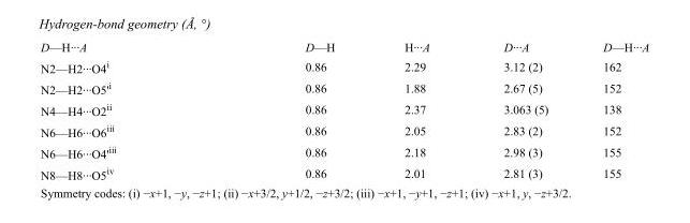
<table><tbody><tr><td>D—H···A</td><td>D—H</td><td>H···A</td><td>D···A</td><td>D—H···A</td></tr><tr><td>N2—H2···O4<sup>i</sup></td><td>0.86</td><td>2.29</td><td>3.12 (2)</td><td>162</td></tr><tr><td>N2—H2···O5&#x27;<sup>i</sup></td><td>0.86</td><td>1.88</td><td>2.67 (5)</td><td>152</td></tr><tr><td>N4—H4···O2<sup>ii</sup></td><td>0.86</td><td>2.37</td><td>3.063 (5)</td><td>138</td></tr><tr><td>N6—H6···O6<sup>iii</sup></td><td>0.86</td><td>2.05</td><td>2.83 (2)</td><td>152</td></tr><tr><td>N6—H6···O4&#x27;<sup>iii</sup></td><td>0.86</td><td>2.18</td><td>2.98 (3)</td><td>155</td></tr><tr><td>N8—H8···O5<sup>iv</sup></td><td>0.86</td><td>2.01</td><td>2.81 (3)</td><td>155</td></tr></tbody></table>